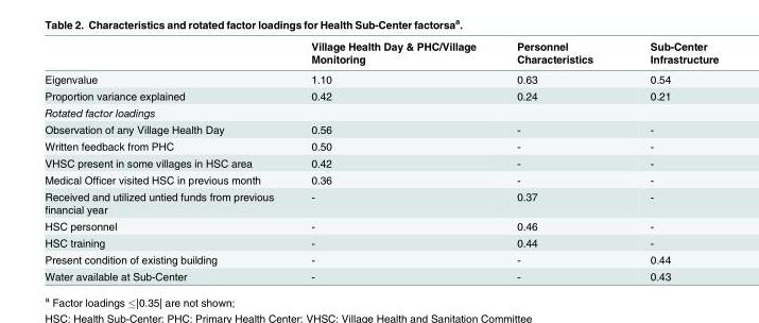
<table><thead><tr><td></td><td>Village Health Day &amp; PHC/Village Monitoring</td><td>Personnel Characteristics</td><td>Sub-Center Infrastructure</td></tr></thead><tbody><tr><td>Eigenvalue</td><td>1.10</td><td>0.63</td><td>0.54</td></tr><tr><td>Proportion variance explained</td><td>0.42</td><td>0.24</td><td>0.21</td></tr><tr><td colspan="4">Rotated factor loadings</td></tr><tr><td>Observation of any Village Health Day</td><td>0.56</td><td>-</td><td>-</td></tr><tr><td>Written feedback from PHC</td><td>0.50</td><td>-</td><td>-</td></tr><tr><td>VHSC present in some villages in HSC area</td><td>0.42</td><td>-</td><td>-</td></tr><tr><td>Medical Officer visited HSC in previous month</td><td>0.36</td><td>-</td><td>-</td></tr><tr><td>Received and utilized untied funds from previous financial year</td><td>-</td><td>0.37</td><td>-</td></tr><tr><td>HSC personnel</td><td>-</td><td>0.46</td><td>-</td></tr><tr><td>HSC training</td><td>-</td><td>0.44</td><td>-</td></tr><tr><td>Present condition of existing building</td><td>-</td><td>-</td><td>0.44</td></tr><tr><td>Water available at Sub-Center</td><td>-</td><td>-</td><td>0.43</td></tr></tbody></table>